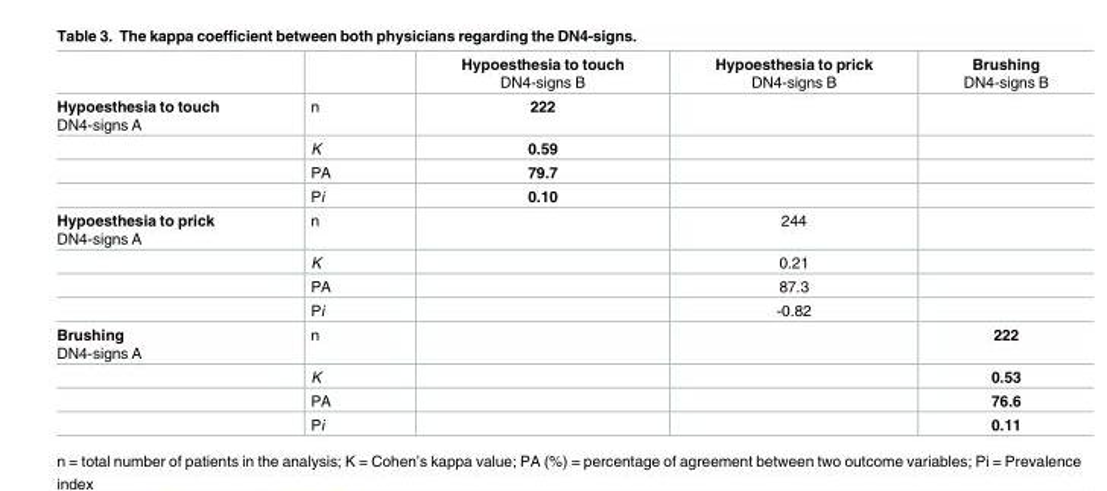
<table><thead><tr><td></td><td></td><td>Hypoesthesia to touch DN4-signs B</td><td>Hypoesthesia to prick DN4-signs B</td><td>Brushing DN4-signs B</td></tr></thead><tbody><tr><td rowspan="4">Hypoesthesia to touch DN4-signs A</td><td>n</td><td>222</td><td></td><td></td></tr><tr><td>K</td><td>0.59</td><td></td><td></td></tr><tr><td>PA</td><td>79.7</td><td></td><td></td></tr><tr><td>Pi</td><td>0.10</td><td></td><td></td></tr><tr><td rowspan="4">Hypoesthesia to prick DN4-signs A</td><td>n</td><td></td><td>244</td><td></td></tr><tr><td>K</td><td></td><td>0.21</td><td></td></tr><tr><td>PA</td><td></td><td>87.3</td><td></td></tr><tr><td>Pi</td><td></td><td>-0.82</td><td></td></tr><tr><td rowspan="4">Brushing DN4-signs A</td><td>n</td><td></td><td></td><td>222</td></tr><tr><td>K</td><td></td><td></td><td>0.53</td></tr><tr><td>PA</td><td></td><td></td><td>76.6</td></tr><tr><td>Pi</td><td></td><td></td><td>0.11</td></tr></tbody></table>